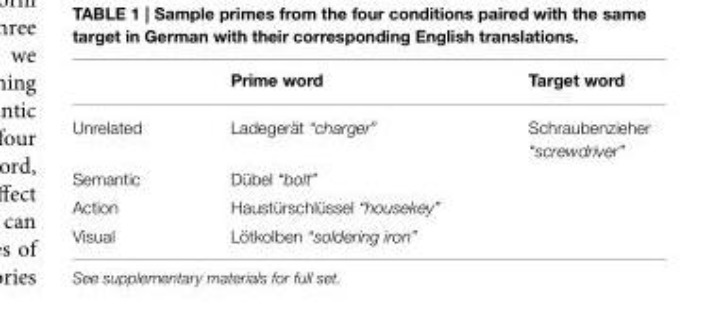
<table><thead><tr><td></td><td>Prime word</td><td>Target word</td></tr></thead><tbody><tr><td>Unrelated</td><td>Ladegerät “charger”</td><td>Schraubenzieher “screwdriver”</td></tr><tr><td>Semantic</td><td>Dübel “bolt”</td><td></td></tr><tr><td>Action</td><td>Haustürschlüssel “housekey”</td><td></td></tr><tr><td>Visual</td><td>Lötkolben “soldering iron”</td><td></td></tr></tbody></table>